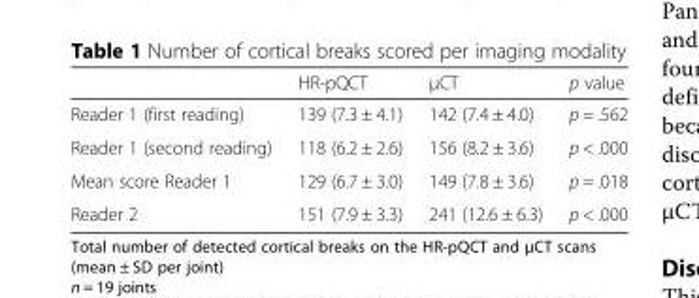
<table><thead><tr><td></td><td>HR-pQCT</td><td>μCT</td><td>p value</td></tr></thead><tbody><tr><td>Reader 1 (first reading)</td><td>139 (7.3 ± 4.1)</td><td>142 (7.4 ± 4.0)</td><td>p = .562</td></tr><tr><td>Reader 1 (second reading)</td><td>118 (6.2 ± 2.6)</td><td>156 (8.2 ± 3.6)</td><td>p &lt; .000</td></tr><tr><td>Mean score Reader 1</td><td>129 (6.7 ± 3.0)</td><td>149 (7.8 ± 3.6)</td><td>p = .018</td></tr><tr><td>Reader 2</td><td>151 (7.9 ± 3.3)</td><td>241 (12.6 ± 6.3)</td><td>p &lt; .000</td></tr></tbody></table>